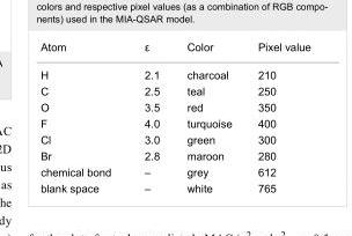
<table><tbody><tr><td>Atom</td><td>ε</td><td>Color</td><td>Pixel value</td></tr><tr><td>H</td><td>2.1</td><td>charcoal</td><td>210</td></tr><tr><td>C</td><td>2.5</td><td>teal</td><td>250</td></tr><tr><td>O</td><td>3.5</td><td>red</td><td>350</td></tr><tr><td>F</td><td>4.0</td><td>turquoise</td><td>400</td></tr><tr><td>Cl</td><td>3.0</td><td>green</td><td>300</td></tr><tr><td>Br</td><td>2.8</td><td>maroon</td><td>280</td></tr><tr><td>chemical bond</td><td>–</td><td>grey</td><td>612</td></tr><tr><td>blank space</td><td>–</td><td>white</td><td>765</td></tr></tbody></table>